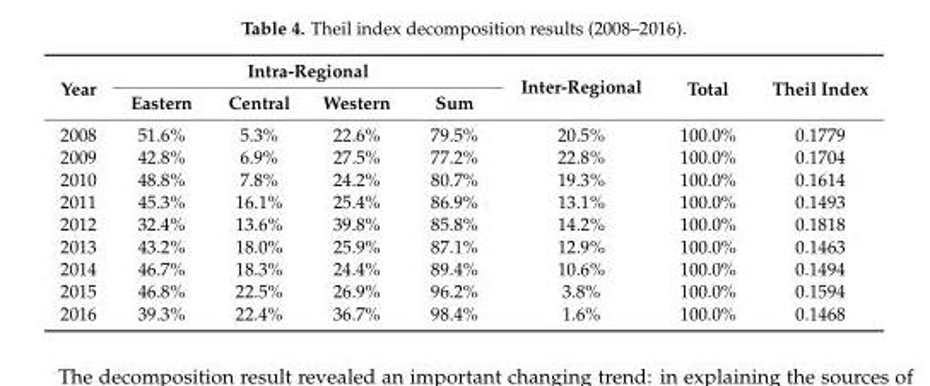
<table><thead><tr><td rowspan="2">Year</td><td colspan="4">Intra-Regional</td><td rowspan="2">Inter-Regional</td><td rowspan="2">Total</td><td rowspan="2">Theil Index</td></tr><tr><td>Eastern</td><td>Central</td><td>Western</td><td>Sum</td></tr></thead><tbody><tr><td>2008</td><td>51.6%</td><td>5.3%</td><td>22.6%</td><td>79.5%</td><td>20.5%</td><td>100.0%</td><td>0.1779</td></tr><tr><td>2009</td><td>42.8%</td><td>6.9%</td><td>27.5%</td><td>77.2%</td><td>22.8%</td><td>100.0%</td><td>0.1704</td></tr><tr><td>2010</td><td>48.8%</td><td>7.8%</td><td>24.2%</td><td>80.7%</td><td>19.3%</td><td>100.0%</td><td>0.1614</td></tr><tr><td>2011</td><td>45.3%</td><td>16.1%</td><td>25.4%</td><td>86.9%</td><td>13.1%</td><td>100.0%</td><td>0.1493</td></tr><tr><td>2012</td><td>32.4%</td><td>13.6%</td><td>39.8%</td><td>85.8%</td><td>14.2%</td><td>100.0%</td><td>0.1818</td></tr><tr><td>2013</td><td>43.2%</td><td>18.0%</td><td>25.9%</td><td>87.1%</td><td>12.9%</td><td>100.0%</td><td>0.1463</td></tr><tr><td>2014</td><td>46.7%</td><td>18.3%</td><td>24.4%</td><td>89.4%</td><td>10.6%</td><td>100.0%</td><td>0.1494</td></tr><tr><td>2015</td><td>46.8%</td><td>22.5%</td><td>26.9%</td><td>96.2%</td><td>3.8%</td><td>100.0%</td><td>0.1594</td></tr><tr><td>2016</td><td>39.3%</td><td>22.4%</td><td>36.7%</td><td>98.4%</td><td>1.6%</td><td>100.0%</td><td>0.1468</td></tr></tbody></table>